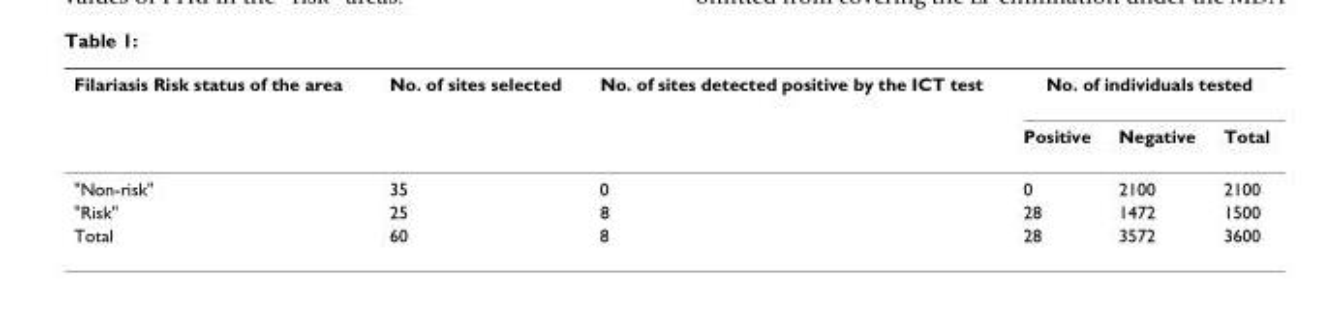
<table><thead><tr><td rowspan="2">Filariasis Risk status of the area</td><td rowspan="2">No. of sites selected</td><td rowspan="2">No. of sites detected positive by the ICT test</td><td colspan="3">No. of individuals tested</td></tr><tr><td>Positive</td><td>Negative</td><td>Total</td></tr></thead><tbody><tr><td>&quot;Non-risk&quot;</td><td>35</td><td>0</td><td>0</td><td>2100</td><td>2100</td></tr><tr><td>&quot;Risk&quot;</td><td>25</td><td>8</td><td>28</td><td>1472</td><td>1500</td></tr><tr><td>Total</td><td>60</td><td>8</td><td>28</td><td>3572</td><td>3600</td></tr></tbody></table>